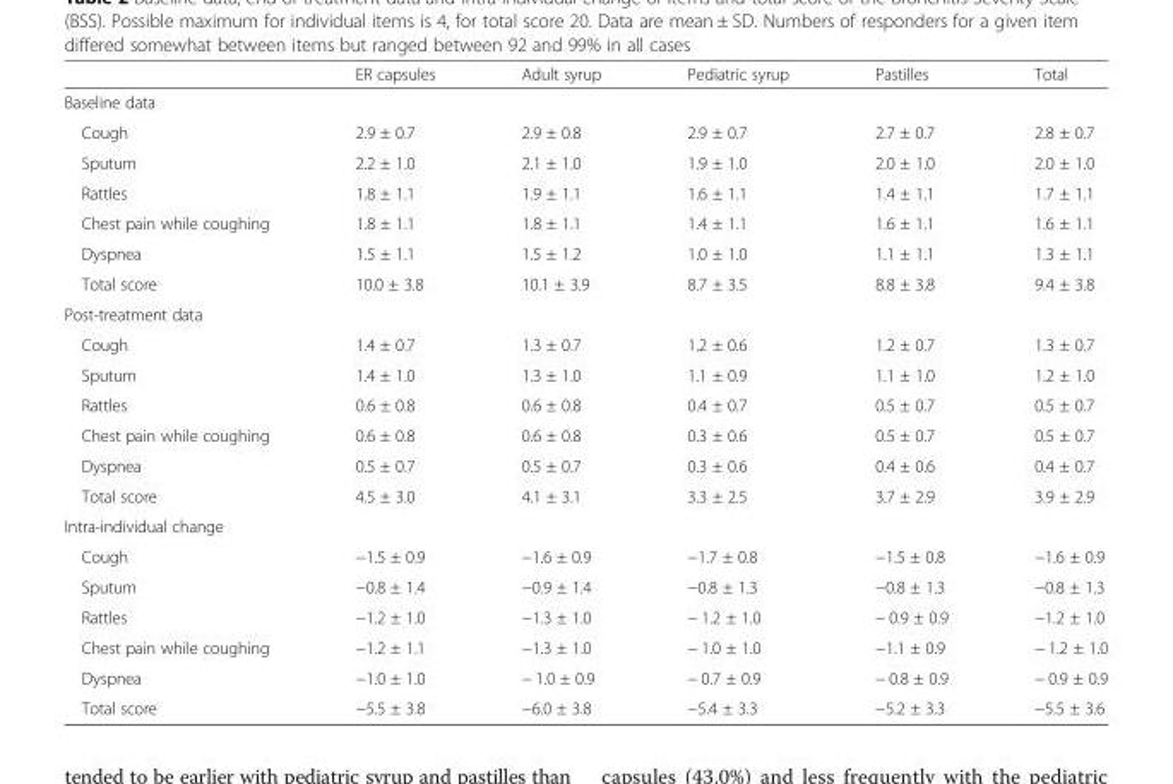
<table><thead><tr><td></td><td>ER capsules</td><td>Adult syrup</td><td>Pediatric syrup</td><td>Pastilles</td><td>Total</td></tr></thead><tbody><tr><td colspan="6">Baseline data</td></tr><tr><td>Cough</td><td>2.9 ± 0.7</td><td>2.9 ± 0.8</td><td>2.9 ± 0.7</td><td>2.7 ± 0.7</td><td>2.8 ± 0.7</td></tr><tr><td>Sputum</td><td>2.2 ± 1.0</td><td>2.1 ± 1.0</td><td>1.9 ± 1.0</td><td>2.0 ± 1.0</td><td>2.0 ± 1.0</td></tr><tr><td>Rattles</td><td>1.8 ± 1.1</td><td>1.9 ± 1.1</td><td>1.6 ± 1.1</td><td>1.4 ± 1.1</td><td>1.7 ± 1.1</td></tr><tr><td>Chest pain while coughing</td><td>1.8 ± 1.1</td><td>1.8 ± 1.1</td><td>1.4 ± 1.1</td><td>1.6 ± 1.1</td><td>1.6 ± 1.1</td></tr><tr><td>Dyspnea</td><td>1.5 ± 1.1</td><td>1.5 ± 1.2</td><td>1.0 ± 1.0</td><td>1.1 ± 1.1</td><td>1.3 ± 1.1</td></tr><tr><td>Total score</td><td>10.0 ± 3.8</td><td>10.1 ± 3.9</td><td>8.7 ± 3.5</td><td>8.8 ± 3.8</td><td>9.4 ± 3.8</td></tr><tr><td colspan="6">Post-treatment data</td></tr><tr><td>Cough</td><td>1.4 ± 0.7</td><td>1.3 ± 0.7</td><td>1.2 ± 0.6</td><td>1.2 ± 0.7</td><td>1.3 ± 0.7</td></tr><tr><td>Sputum</td><td>1.4 ± 1.0</td><td>1.3 ± 1.0</td><td>1.1 ± 0.9</td><td>1.1 ± 1.0</td><td>1.2 ± 1.0</td></tr><tr><td>Rattles</td><td>0.6 ± 0.8</td><td>0.6 ± 0.8</td><td>0.4 ± 0.7</td><td>0.5 ± 0.7</td><td>0.5 ± 0.7</td></tr><tr><td>Chest pain while coughing</td><td>0.6 ± 0.8</td><td>0.6 ± 0.8</td><td>0.3 ± 0.6</td><td>0.5 ± 0.7</td><td>0.5 ± 0.7</td></tr><tr><td>Dyspnea</td><td>0.5 ± 0.7</td><td>0.5 ± 0.7</td><td>0.3 ± 0.6</td><td>0.4 ± 0.6</td><td>0.4 ± 0.7</td></tr><tr><td>Total score</td><td>4.5 ± 3.0</td><td>4.1 ± 3.1</td><td>3.3 ± 2.5</td><td>3.7 ± 2.9</td><td>3.9 ± 2.9</td></tr><tr><td colspan="6">Intra-individual change</td></tr><tr><td>Cough</td><td>−1.5 ± 0.9</td><td>−1.6 ± 0.9</td><td>−1.7 ± 0.8</td><td>−1.5 ± 0.8</td><td>−1.6 ± 0.9</td></tr><tr><td>Sputum</td><td>−0.8 ± 1.4</td><td>−0.9 ± 1.4</td><td>−0.8 ± 1.3</td><td>−0.8 ± 1.3</td><td>−0.8 ± 1.3</td></tr><tr><td>Rattles</td><td>−1.2 ± 1.0</td><td>−1.3 ± 1.0</td><td>− 1.2 ± 1.0</td><td>− 0.9 ± 0.9</td><td>−1.2 ± 1.0</td></tr><tr><td>Chest pain while coughing</td><td>−1.2 ± 1.1</td><td>−1.3 ± 1.0</td><td>− 1.0 ± 1.0</td><td>−1.1 ± 0.9</td><td>− 1.2 ± 1.0</td></tr><tr><td>Dyspnea</td><td>−1.0 ± 1.0</td><td>− 1.0 ± 0.9</td><td>− 0.7 ± 0.9</td><td>− 0.8 ± 0.9</td><td>− 0.9 ± 0.9</td></tr><tr><td>Total score</td><td>−5.5 ± 3.8</td><td>−6.0 ± 3.8</td><td>−5.4 ± 3.3</td><td>−5.2 ± 3.3</td><td>−5.5 ± 3.6</td></tr></tbody></table>